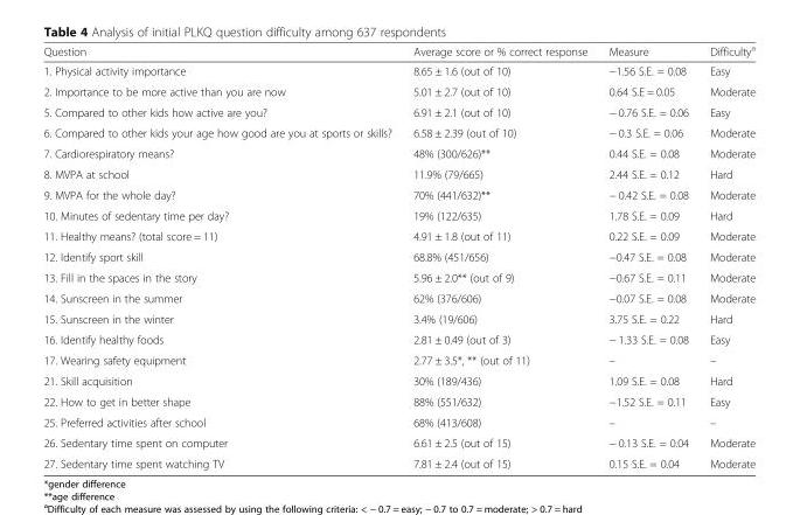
<table><thead><tr><td>Question</td><td>Average score or % correct response</td><td>Measure</td><td>Difficulty<sup>a</sup></td></tr></thead><tbody><tr><td>1. Physical activity importance</td><td>8.65 ± 1.6 (out of 10)</td><td>−1.56 S.E. = 0.08</td><td>Easy</td></tr><tr><td>2. Importance to be more active than you are now</td><td>5.01 ± 2.7 (out of 10)</td><td>0.64 S.E = 0.05</td><td>Moderate</td></tr><tr><td>5. Compared to other kids how active are you?</td><td>6.91 ± 2.1 (out of 10)</td><td>− 0.76 S.E. = 0.06</td><td>Easy</td></tr><tr><td>6. Compared to other kids your age how good are you at sports or skills?</td><td>6.58 ± 2.39 (out of 10)</td><td>− 0.3 S.E. = 0.06</td><td>Moderate</td></tr><tr><td>7. Cardiorespiratory means?</td><td>48% (300/626)**</td><td>0.44 S.E. = 0.08</td><td>Moderate</td></tr><tr><td>8. MVPA at school</td><td>11.9% (79/665)</td><td>2.44 S.E. = 0.12</td><td>Hard</td></tr><tr><td>9. MVPA for the whole day?</td><td>70% (441/632)**</td><td>− 0.42 S.E. = 0.08</td><td>Moderate</td></tr><tr><td>10. Minutes of sedentary time per day?</td><td>19% (122/635)</td><td>1.78 S.E. = 0.09</td><td>Hard</td></tr><tr><td>11. Healthy means? (total score = 11)</td><td>4.91 ± 1.8 (out of 11)</td><td>0.22 S.E. = 0.09</td><td>Moderate</td></tr><tr><td>12. Identify sport skill</td><td>68.8% (451/656)</td><td>−0.47 S.E. = 0.08</td><td>Moderate</td></tr><tr><td>13. Fill in the spaces in the story</td><td>5.96 ± 2.0** (out of 9)</td><td>−0.67 S.E. = 0.11</td><td>Moderate</td></tr><tr><td>14. Sunscreen in the summer</td><td>62% (376/606)</td><td>−0.07 S.E. = 0.08</td><td>Moderate</td></tr><tr><td>15. Sunscreen in the winter</td><td>3.4% (19/606)</td><td>3.75 S.E. = 0.22</td><td>Hard</td></tr><tr><td>16. Identify healthy foods</td><td>2.81 ± 0.49 (out of 3)</td><td>− 1.33 S.E. = 0.08</td><td>Easy</td></tr><tr><td>17. Wearing safety equipment</td><td>2.77 ± 3.5*, ** (out of 11)</td><td>–</td><td>–</td></tr><tr><td>21. Skill acquisition</td><td>30% (189/436)</td><td>1.09 S.E. = 0.08</td><td>Hard</td></tr><tr><td>22. How to get in better shape</td><td>88% (551/632)</td><td>−1.52 S.E. = 0.11</td><td>Easy</td></tr><tr><td>25. Preferred activities after school</td><td>68% (413/608)</td><td>–</td><td>–</td></tr><tr><td>26. Sedentary time spent on computer</td><td>6.61 ± 2.5 (out of 15)</td><td>− 0.13 S.E. = 0.04</td><td>Moderate</td></tr><tr><td>27. Sedentary time spent watching TV</td><td>7.81 ± 2.4 (out of 15)</td><td>0.15 S.E. = 0.04</td><td>Moderate</td></tr></tbody></table>